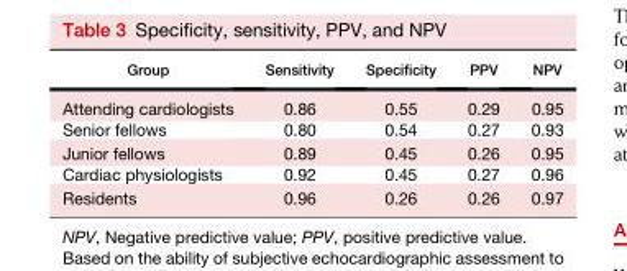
<table><thead><tr><td>Group</td><td>Sensitivity</td><td>Specificity</td><td>PPV</td><td>NPV</td></tr></thead><tbody><tr><td>Attending cardiologists</td><td>0.86</td><td>0.55</td><td>0.29</td><td>0.95</td></tr><tr><td>Senior fellows</td><td>0.80</td><td>0.54</td><td>0.27</td><td>0.93</td></tr><tr><td>Junior fellows</td><td>0.89</td><td>0.45</td><td>0.26</td><td>0.95</td></tr><tr><td>Cardiac physiologists</td><td>0.92</td><td>0.45</td><td>0.27</td><td>0.96</td></tr><tr><td>Residents</td><td>0.96</td><td>0.26</td><td>0.26</td><td>0.97</td></tr></tbody></table>